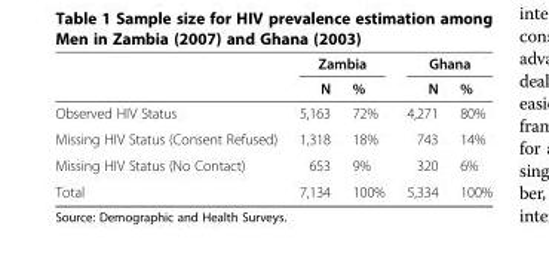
<table><thead><tr><td rowspan="2"></td><td colspan="2">Zambia</td><td colspan="2">Ghana</td></tr><tr><td>N</td><td>%</td><td>N</td><td>%</td></tr></thead><tbody><tr><td>Observed HIV Status</td><td>5,163</td><td>72%</td><td>4,271</td><td>80%</td></tr><tr><td>Missing HIV Status (Consent Refused)</td><td>1,318</td><td>18%</td><td>743</td><td>14%</td></tr><tr><td>Missing HIV Status (No Contact)</td><td>653</td><td>9%</td><td>320</td><td>6%</td></tr><tr><td>Total</td><td>7,134</td><td>100%</td><td>5,334</td><td>100%</td></tr></tbody></table>